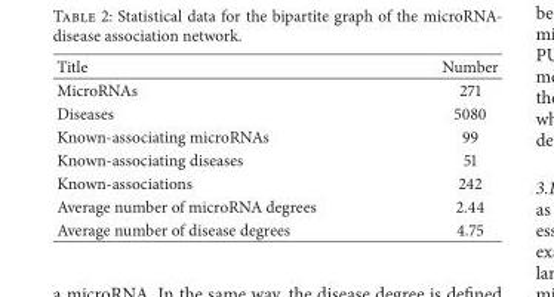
<table><thead><tr><td>Title</td><td>Number</td></tr></thead><tbody><tr><td>MicroRNAs</td><td>271</td></tr><tr><td>Diseases</td><td>5080</td></tr><tr><td>Known-associating microRNAs</td><td>99</td></tr><tr><td>Known-associating diseases</td><td>51</td></tr><tr><td>Known-associations</td><td>242</td></tr><tr><td>Average number of microRNA degrees</td><td>2.44</td></tr><tr><td>Average number of disease degrees</td><td>4.75</td></tr></tbody></table>